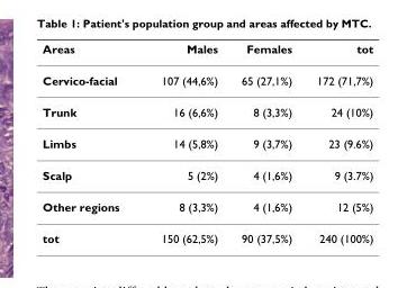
<table><thead><tr><td>Areas</td><td>Males</td><td>Females</td><td>tot</td></tr></thead><tbody><tr><td>Cervico-facial</td><td>107 (44,6%)</td><td>65 (27,1%)</td><td>172 (71,7%)</td></tr><tr><td>Trunk</td><td>16 (6,6%)</td><td>8 (3,3%)</td><td>24 (10%)</td></tr><tr><td>Limbs</td><td>14 (5,8%)</td><td>9 (3,7%)</td><td>23 (9.6%)</td></tr><tr><td>Scalp</td><td>5 (2%)</td><td>4 (1,6%)</td><td>9 (3.7%)</td></tr><tr><td>Other regions</td><td>8 (3,3%)</td><td>4 (1,6%)</td><td>12 (5%)</td></tr><tr><td>tot</td><td>150 (62,5%)</td><td>90 (37,5%)</td><td>240 (100%)</td></tr></tbody></table>